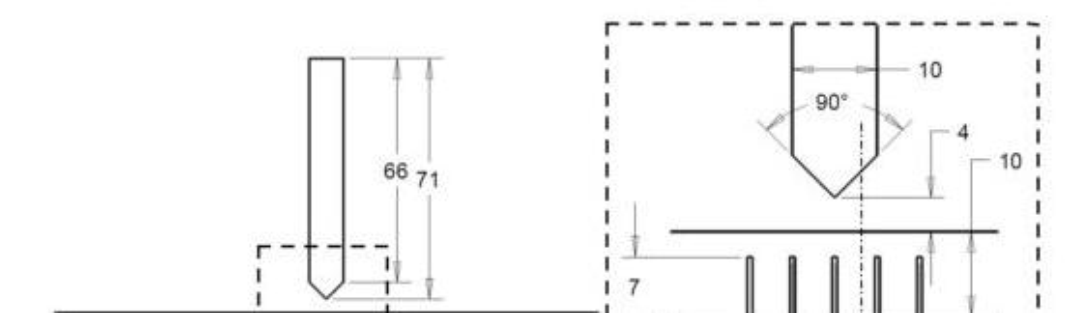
<table><thead><tr><td>Joint</td><td>Welding Bead</td><td>Current (A)</td><td>Voltage (V)</td><td>Wire Feed (m/min)</td><td>Wire Diameter (mm)</td></tr></thead><tbody><tr><td rowspan="2">Butt joint</td><td>1</td><td>145</td><td>23.5</td><td>7.5</td><td>1.2</td></tr><tr><td>2 &amp; 3</td><td>145</td><td>23.5</td><td>7.5</td><td>1.2</td></tr><tr><td rowspan="2">T-joint</td><td>1 &amp; 2</td><td>204</td><td>24.4</td><td>9.5</td><td>1.2</td></tr><tr><td>3 &amp; 4</td><td>188</td><td>23.7</td><td>8.5</td><td>1.2</td></tr></tbody></table>